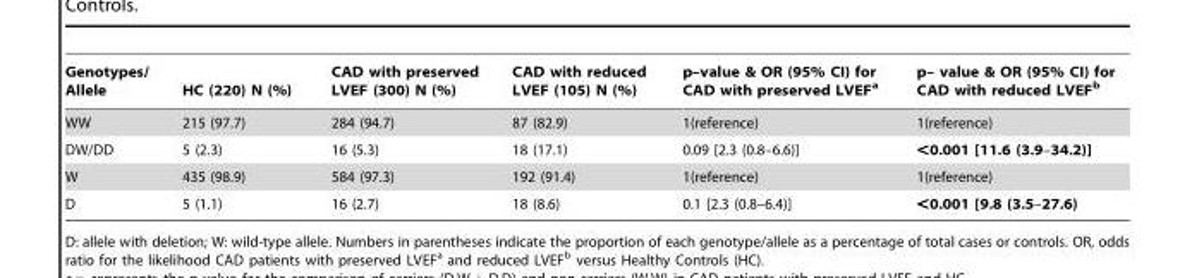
<table><thead><tr><td>Genotypes/ Allele</td><td>HC (220) N (%)</td><td>CAD with preserved LVEF (300) N (%)</td><td>CAD with reduced LVEF (105) N (%)</td><td>p–value &amp; OR (95% CI) for CAD with preserved LVEF<sup>a</sup></td><td>p– value &amp; OR (95% CI) for CAD with reduced LVEF<sup>b</sup></td></tr></thead><tbody><tr><td>WW</td><td>215 (97.7)</td><td>284 (94.7)</td><td>87 (82.9)</td><td>1(reference)</td><td>1(reference)</td></tr><tr><td>DW/DD</td><td>5 (2.3)</td><td>16 (5.3)</td><td>18 (17.1)</td><td>0.09 [2.3 (0.8–6.6)]</td><td>&lt;0.001 [11.6 (3.9–34.2)]</td></tr><tr><td>W</td><td>435 (98.9)</td><td>584 (97.3)</td><td>192 (91.4)</td><td>1(reference)</td><td>1(reference)</td></tr><tr><td>D</td><td>5 (1.1)</td><td>16 (2.7)</td><td>18 (8.6)</td><td>0.1 [2.3 (0.8–6.4)]</td><td>&lt;0.001 [9.8 (3.5–27.6)</td></tr></tbody></table>